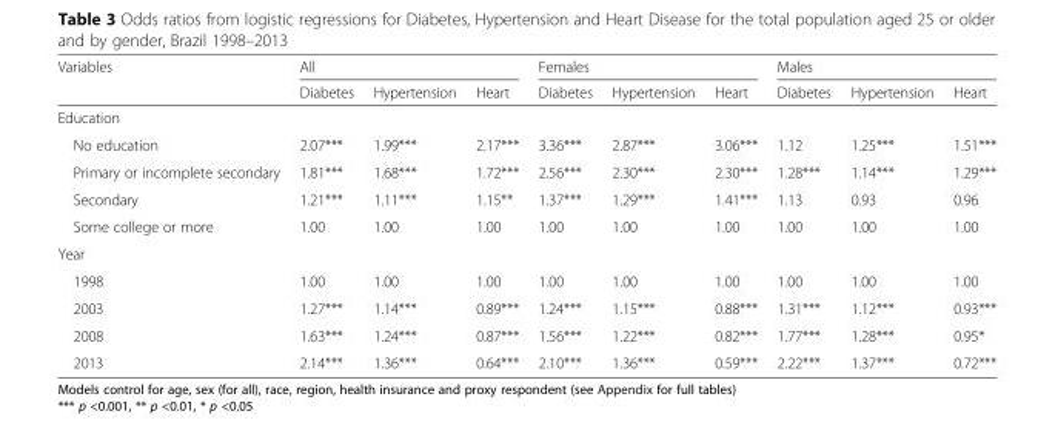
<table><thead><tr><td rowspan="2">Variables</td><td colspan="3">All</td><td colspan="3">Females</td><td colspan="3">Males</td></tr><tr><td>Diabetes</td><td>Hypertension</td><td>Heart</td><td>Diabetes</td><td>Hypertension</td><td>Heart</td><td>Diabetes</td><td>Hypertension</td><td>Heart</td></tr></thead><tbody><tr><td colspan="10">Education</td></tr><tr><td>No education</td><td>2.07***</td><td>1.99***</td><td>2.17***</td><td>3.36***</td><td>2.87***</td><td>3.06***</td><td>1.12</td><td>1.25***</td><td>1.51***</td></tr><tr><td>Primary or incomplete secondary</td><td>1.81***</td><td>1.68***</td><td>1.72***</td><td>2.56***</td><td>2.30***</td><td>2.30***</td><td>1.28***</td><td>1.14***</td><td>1.29***</td></tr><tr><td>Secondary</td><td>1.21***</td><td>1.11***</td><td>1.15**</td><td>1.37***</td><td>1.29***</td><td>1.41***</td><td>1.13</td><td>0.93</td><td>0.96</td></tr><tr><td>Some college or more</td><td>1.00</td><td>1.00</td><td>1.00</td><td>1.00</td><td>1.00</td><td>1.00</td><td>1.00</td><td>1.00</td><td>1.00</td></tr><tr><td colspan="10">Year</td></tr><tr><td>1998</td><td>1.00</td><td>1.00</td><td>1.00</td><td>1.00</td><td>1.00</td><td>1.00</td><td>1.00</td><td>1.00</td><td>1.00</td></tr><tr><td>2003</td><td>1.27***</td><td>1.14***</td><td>0.89***</td><td>1.24***</td><td>1.15***</td><td>0.88***</td><td>1.31***</td><td>1.12***</td><td>0.93***</td></tr><tr><td>2008</td><td>1.63***</td><td>1.24***</td><td>0.87***</td><td>1.56***</td><td>1.22***</td><td>0.82***</td><td>1.77***</td><td>1.28***</td><td>0.95*</td></tr><tr><td>2013</td><td>2.14***</td><td>1.36***</td><td>0.64***</td><td>2.10***</td><td>1.36***</td><td>0.59***</td><td>2.22***</td><td>1.37***</td><td>0.72***</td></tr></tbody></table>